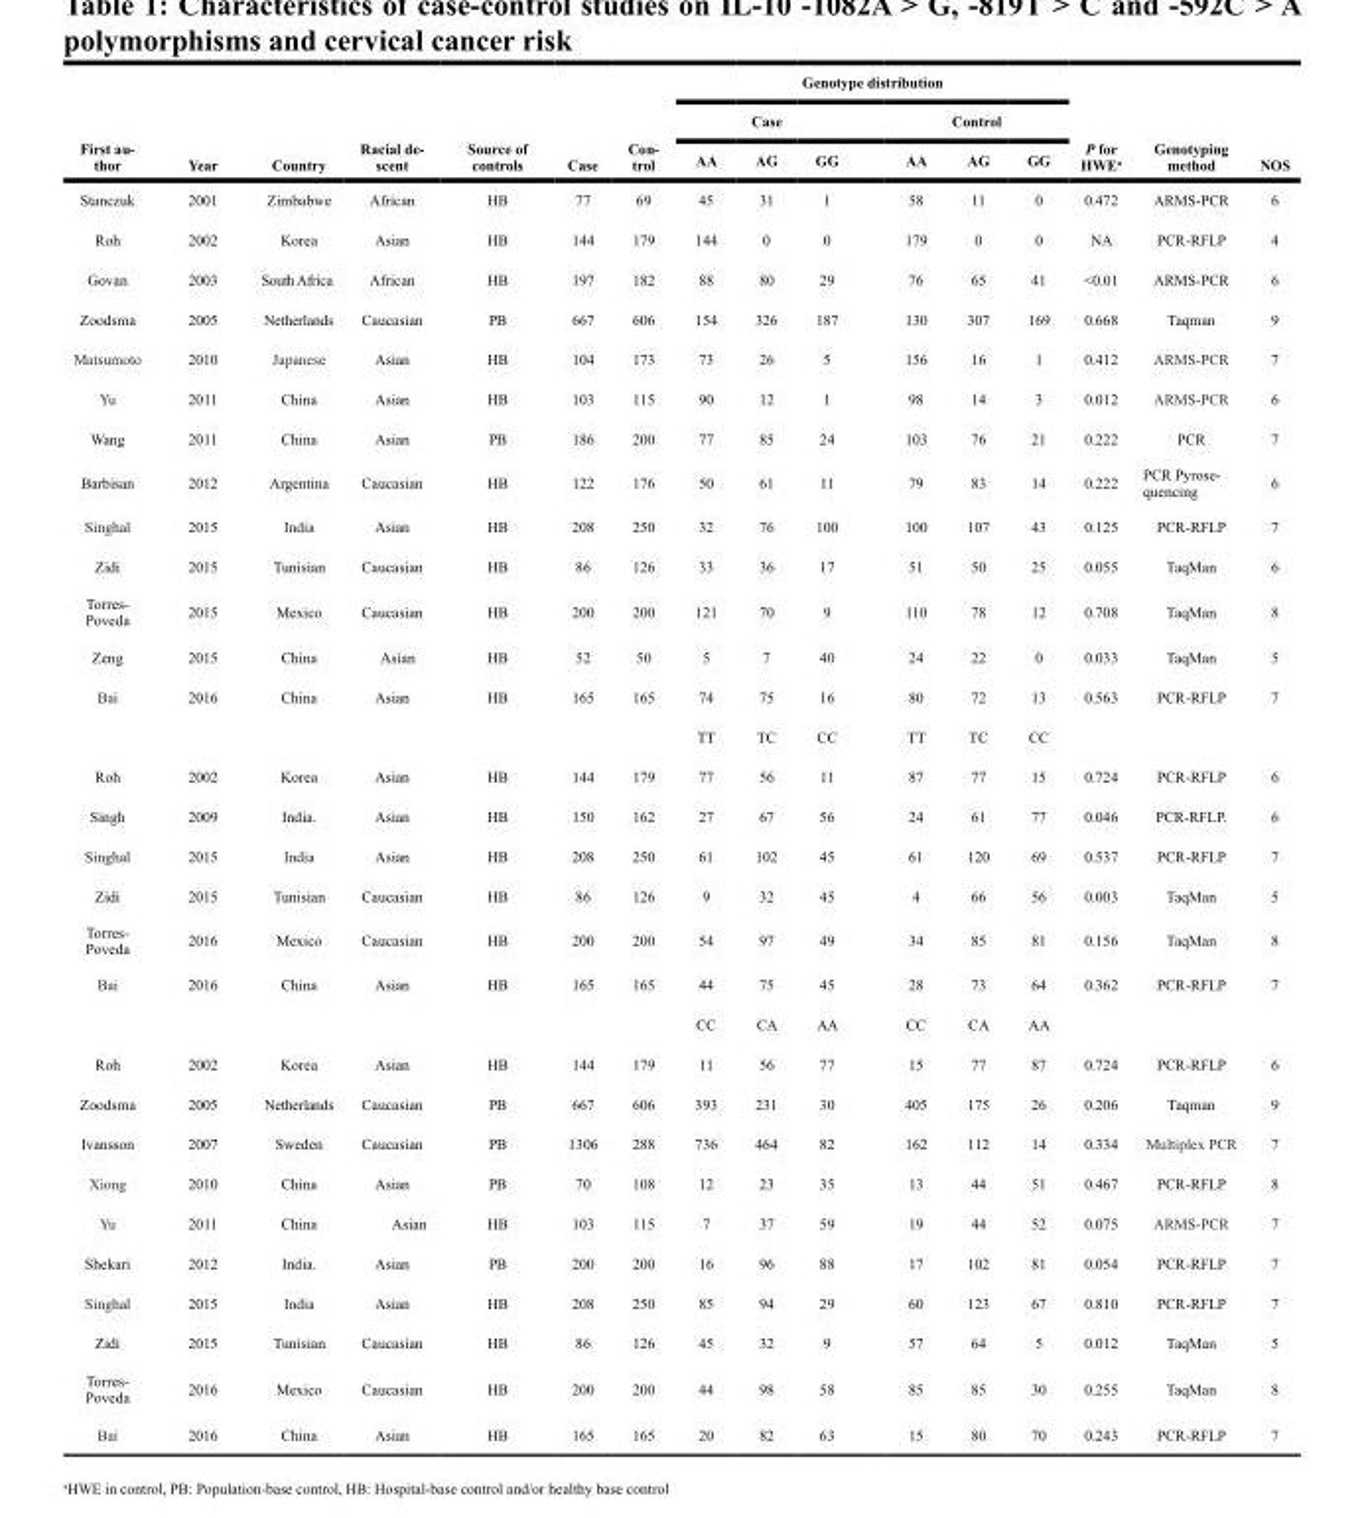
<table><thead><tr><td rowspan="3">First au- thor</td><td rowspan="3">Year</td><td rowspan="3">Country</td><td rowspan="3">Racial de- scent</td><td rowspan="3">Source of controls</td><td rowspan="3">Case</td><td rowspan="3">Con- trol</td><td colspan="6">Genotype distribution</td><td rowspan="3">P for HWE<sup>a</sup></td><td rowspan="3">Genotyping method</td><td rowspan="3">NOS</td></tr><tr><td colspan="3">Case</td><td colspan="3">Control</td></tr><tr><td>AA</td><td>AG</td><td>GG</td><td>AA</td><td>AG</td><td>GG</td></tr></thead><tbody><tr><td>Stanczuk</td><td>2001</td><td>Zimbabwe</td><td>African</td><td>HB</td><td>77</td><td>69</td><td>45</td><td>31</td><td>1</td><td>58</td><td>11</td><td>0</td><td>0.472</td><td>ARMS-PCR</td><td>6</td></tr><tr><td>Roh</td><td>2002</td><td>Korea</td><td>Asian</td><td>HB</td><td>144</td><td>179</td><td>144</td><td>0</td><td>0</td><td>179</td><td>0</td><td>0</td><td>NA</td><td>PCR-RFLP</td><td>4</td></tr><tr><td>Govan</td><td>2003</td><td>South Africa</td><td>African</td><td>HB</td><td>197</td><td>182</td><td>88</td><td>80</td><td>29</td><td>76</td><td>65</td><td>41</td><td>&lt;0.01</td><td>ARMS-PCR</td><td>6</td></tr><tr><td>Zoodsma</td><td>2005</td><td>Netherlands</td><td>Caucasian</td><td>PB</td><td>667</td><td>606</td><td>154</td><td>326</td><td>187</td><td>130</td><td>307</td><td>169</td><td>0.668</td><td>Taqman</td><td>9</td></tr><tr><td>Matsumoto</td><td>2010</td><td>Japanese</td><td>Asian</td><td>HB</td><td>104</td><td>173</td><td>73</td><td>26</td><td>5</td><td>156</td><td>16</td><td>1</td><td>0.412</td><td>ARMS-PCR</td><td>7</td></tr><tr><td>Yu</td><td>2011</td><td>China</td><td>Asian</td><td>HB</td><td>103</td><td>115</td><td>90</td><td>12</td><td>1</td><td>98</td><td>14</td><td>3</td><td>0.012</td><td>ARMS-PCR</td><td>6</td></tr><tr><td>Wang</td><td>2011</td><td>China</td><td>Asian</td><td>PB</td><td>186</td><td>200</td><td>77</td><td>85</td><td>24</td><td>103</td><td>76</td><td>21</td><td>0.222</td><td>PCR</td><td>7</td></tr><tr><td>Barbisan</td><td>2012</td><td>Argentina</td><td>Caucasian</td><td>HB</td><td>122</td><td>176</td><td>50</td><td>61</td><td>11</td><td>79</td><td>83</td><td>14</td><td>0.222</td><td>PCR Pyrose- quencing</td><td>6</td></tr><tr><td>Singhal</td><td>2015</td><td>India</td><td>Asian</td><td>HB</td><td>208</td><td>250</td><td>32</td><td>76</td><td>100</td><td>100</td><td>107</td><td>43</td><td>0.125</td><td>PCR-RFLP</td><td>7</td></tr><tr><td>Zidi</td><td>2015</td><td>Tunisian</td><td>Caucasian</td><td>HB</td><td>86</td><td>126</td><td>33</td><td>36</td><td>17</td><td>51</td><td>50</td><td>25</td><td>0.055</td><td>TaqMan</td><td>6</td></tr><tr><td>Torres- Poveda</td><td>2015</td><td>Mexico</td><td>Caucasian</td><td>HB</td><td>200</td><td>200</td><td>121</td><td>70</td><td>9</td><td>110</td><td>78</td><td>12</td><td>0.708</td><td>TaqMan</td><td>8</td></tr><tr><td>Zeng</td><td>2015</td><td>China</td><td>Asian</td><td>HB</td><td>52</td><td>50</td><td>5</td><td>7</td><td>40</td><td>24</td><td>22</td><td>0</td><td>0.033</td><td>TaqMan</td><td>5</td></tr><tr><td rowspan="2">Bai</td><td>2016</td><td>China</td><td>Asian</td><td>HB</td><td>165</td><td>165</td><td>74</td><td>75</td><td>16</td><td>80</td><td>72</td><td>13</td><td>0.563</td><td>PCR-RFLP</td><td>7</td></tr><tr><td></td><td></td><td></td><td></td><td></td><td></td><td>TT</td><td>TC</td><td>CC</td><td>TT</td><td>TC</td><td>CC</td><td></td><td></td><td></td></tr><tr><td>Roh</td><td>2002</td><td>Korea</td><td>Asian</td><td>HB</td><td>144</td><td>179</td><td>77</td><td>56</td><td>11</td><td>87</td><td>77</td><td>15</td><td>0.724</td><td>PCR-RFLP</td><td>6</td></tr><tr><td>Singh</td><td>2009</td><td>India.</td><td>Asian</td><td>HB</td><td>150</td><td>162</td><td>27</td><td>67</td><td>56</td><td>24</td><td>61</td><td>77</td><td>0.046</td><td>PCR-RFLP.</td><td>6</td></tr><tr><td>Singhal</td><td>2015</td><td>India</td><td>Asian</td><td>HB</td><td>208</td><td>250</td><td>61</td><td>102</td><td>45</td><td>61</td><td>120</td><td>69</td><td>0.537</td><td>PCR-RFLP</td><td>7</td></tr><tr><td>Zidi</td><td>2015</td><td>Tunisian</td><td>Caucasian</td><td>HB</td><td>86</td><td>126</td><td>9</td><td>32</td><td>45</td><td>4</td><td>66</td><td>56</td><td>0.003</td><td>TaqMan</td><td>5</td></tr><tr><td>Torres- Poveda</td><td>2016</td><td>Mexico</td><td>Caucasian</td><td>HB</td><td>200</td><td>200</td><td>54</td><td>97</td><td>49</td><td>34</td><td>85</td><td>81</td><td>0.156</td><td>TaqMan</td><td>8</td></tr><tr><td rowspan="2">Bai</td><td>2016</td><td>China</td><td>Asian</td><td>HB</td><td>165</td><td>165</td><td>44</td><td>75</td><td>45</td><td>28</td><td>73</td><td>64</td><td>0.362</td><td>PCR-RFLP</td><td>7</td></tr><tr><td></td><td></td><td></td><td></td><td></td><td></td><td>CC</td><td>CA</td><td>AA</td><td>CC</td><td>CA</td><td>AA</td><td></td><td></td><td></td></tr><tr><td>Roh</td><td>2002</td><td>Korea</td><td>Asian</td><td>HB</td><td>144</td><td>179</td><td>11</td><td>56</td><td>77</td><td>15</td><td>77</td><td>87</td><td>0.724</td><td>PCR-RFLP</td><td>6</td></tr><tr><td>Zoodsma</td><td>2005</td><td>Netherlands</td><td>Caucasian</td><td>PB</td><td>667</td><td>606</td><td>393</td><td>231</td><td>30</td><td>405</td><td>175</td><td>26</td><td>0.206</td><td>Taqman</td><td>9</td></tr><tr><td>Ivansson</td><td>2007</td><td>Sweden</td><td>Caucasian</td><td>PB</td><td>1306</td><td>288</td><td>736</td><td>464</td><td>82</td><td>162</td><td>112</td><td>14</td><td>0.334</td><td>Multiplex PCR</td><td>7</td></tr><tr><td>Xiong</td><td>2010</td><td>China</td><td>Asian</td><td>PB</td><td>70</td><td>108</td><td>12</td><td>23</td><td>35</td><td>13</td><td>44</td><td>51</td><td>0.467</td><td>PCR-RFLP</td><td>8</td></tr><tr><td>Yu</td><td>2011</td><td>China</td><td>Asian</td><td>HB</td><td>103</td><td>115</td><td>7</td><td>37</td><td>59</td><td>19</td><td>44</td><td>52</td><td>0.075</td><td>ARMS-PCR</td><td>7</td></tr><tr><td>Shekari</td><td>2012</td><td>India.</td><td>Asian</td><td>PB</td><td>200</td><td>200</td><td>16</td><td>96</td><td>88</td><td>17</td><td>102</td><td>81</td><td>0.054</td><td>PCR-RFLP</td><td>7</td></tr><tr><td>Singhal</td><td>2015</td><td>India</td><td>Asian</td><td>HB</td><td>208</td><td>250</td><td>85</td><td>94</td><td>29</td><td>60</td><td>123</td><td>67</td><td>0.810</td><td>PCR-RFLP</td><td>7</td></tr><tr><td>Zidi</td><td>2015</td><td>Tunisian</td><td>Caucasian</td><td>HB</td><td>86</td><td>126</td><td>45</td><td>32</td><td>9</td><td>57</td><td>64</td><td>5</td><td>0.012</td><td>TaqMan</td><td>5</td></tr><tr><td>Torres- Poveda</td><td>2016</td><td>Mexico</td><td>Caucasian</td><td>HB</td><td>200</td><td>200</td><td>44</td><td>98</td><td>58</td><td>85</td><td>85</td><td>30</td><td>0.255</td><td>TaqMan</td><td>8</td></tr><tr><td>Bai</td><td>2016</td><td>China</td><td>Asian</td><td>HB</td><td>165</td><td>165</td><td>20</td><td>82</td><td>63</td><td>15</td><td>80</td><td>70</td><td>0.243</td><td>PCR-RFLP</td><td>7</td></tr></tbody></table>